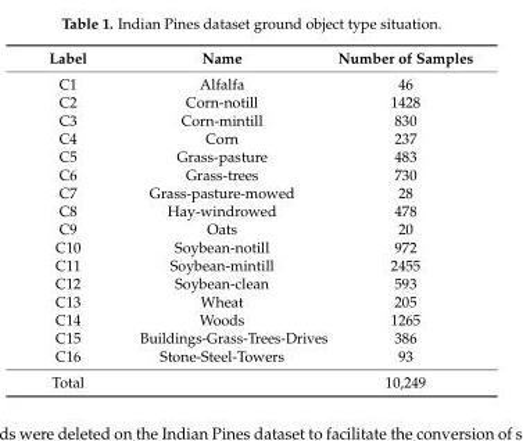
<table><thead><tr><td>Label</td><td>Name</td><td>Number of Samples</td></tr></thead><tbody><tr><td>C1</td><td>Alfalfa</td><td>46</td></tr><tr><td>C2</td><td>Corn-notill</td><td>1428</td></tr><tr><td>C3</td><td>Corn-mintill</td><td>830</td></tr><tr><td>C4</td><td>Corn</td><td>237</td></tr><tr><td>C5</td><td>Grass-pasture</td><td>483</td></tr><tr><td>C6</td><td>Grass-trees</td><td>730</td></tr><tr><td>C7</td><td>Grass-pasture-mowed</td><td>28</td></tr><tr><td>C8</td><td>Hay-windrowed</td><td>478</td></tr><tr><td>C9</td><td>Oats</td><td>20</td></tr><tr><td>C10</td><td>Soybean-notill</td><td>972</td></tr><tr><td>C11</td><td>Soybean-mintill</td><td>2455</td></tr><tr><td>C12</td><td>Soybean-clean</td><td>593</td></tr><tr><td>C13</td><td>Wheat</td><td>205</td></tr><tr><td>C14</td><td>Woods</td><td>1265</td></tr><tr><td>C15</td><td>Buildings-Grass-Trees-Drives</td><td>386</td></tr><tr><td>C16</td><td>Stone-Steel-Towers</td><td>93</td></tr><tr><td>Total</td><td></td><td>10,249</td></tr></tbody></table>